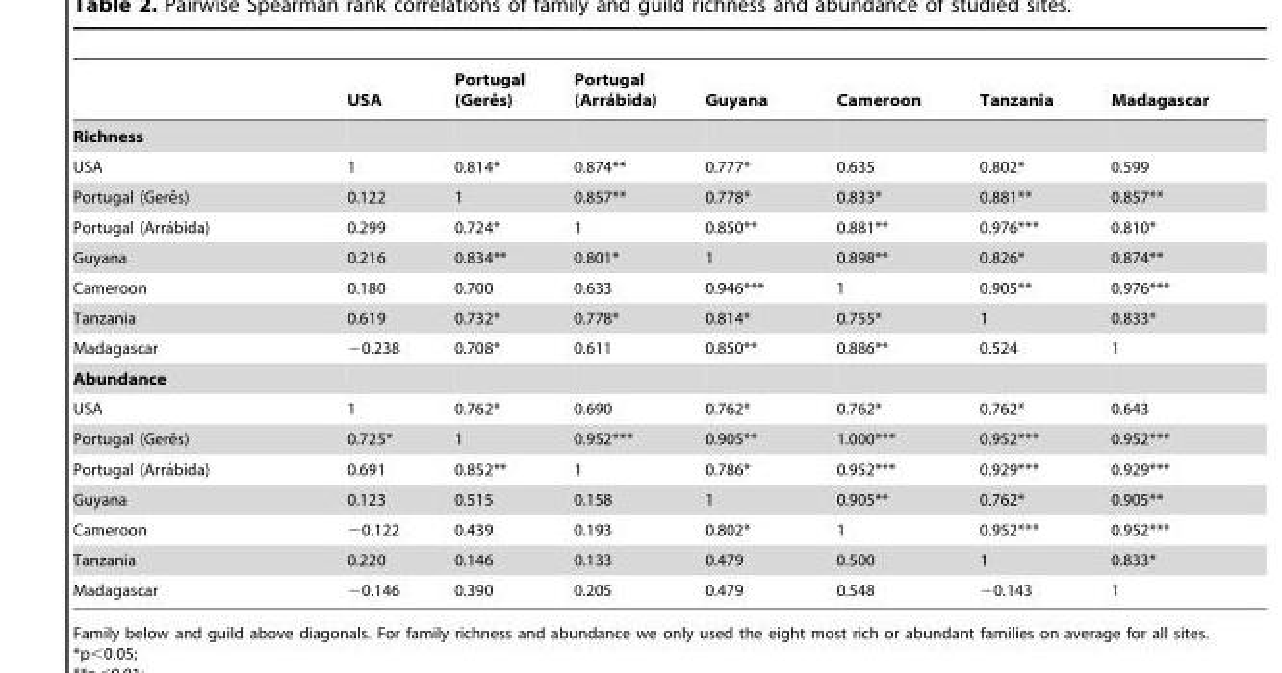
<table><thead><tr><td></td><td>USA</td><td>Portugal (Gereˆs)</td><td>Portugal (Arra´bida)</td><td>Guyana</td><td>Cameroon</td><td>Tanzania</td><td>Madagascar</td></tr></thead><tbody><tr><td colspan="8">Richness</td></tr><tr><td>USA</td><td>1</td><td>0.814*</td><td>0.874**</td><td>0.777*</td><td>0.635</td><td>0.802*</td><td>0.599</td></tr><tr><td>Portugal (Gereˆs)</td><td>0.122</td><td>1</td><td>0.857**</td><td>0.778*</td><td>0.833*</td><td>0.881**</td><td>0.857**</td></tr><tr><td>Portugal (Arra´bida)</td><td>0.299</td><td>0.724*</td><td>1</td><td>0.850**</td><td>0.881**</td><td>0.976***</td><td>0.810*</td></tr><tr><td>Guyana</td><td>0.216</td><td>0.834**</td><td>0.801*</td><td>1</td><td>0.898**</td><td>0.826*</td><td>0.874**</td></tr><tr><td>Cameroon</td><td>0.180</td><td>0.700</td><td>0.633</td><td>0.946***</td><td>1</td><td>0.905**</td><td>0.976***</td></tr><tr><td>Tanzania</td><td>0.619</td><td>0.732*</td><td>0.778*</td><td>0.814*</td><td>0.755*</td><td>1</td><td>0.833*</td></tr><tr><td>Madagascar</td><td>−0.238</td><td>0.708*</td><td>0.611</td><td>0.850**</td><td>0.886**</td><td>0.524</td><td>1</td></tr><tr><td colspan="8">Abundance</td></tr><tr><td>USA</td><td>1</td><td>0.762*</td><td>0.690</td><td>0.762*</td><td>0.762*</td><td>0.762*</td><td>0.643</td></tr><tr><td>Portugal (Gereˆs)</td><td>0.725*</td><td>1</td><td>0.952***</td><td>0.905**</td><td>1.000***</td><td>0.952***</td><td>0.952***</td></tr><tr><td>Portugal (Arra´bida)</td><td>0.691</td><td>0.852**</td><td>1</td><td>0.786*</td><td>0.952***</td><td>0.929***</td><td>0.929***</td></tr><tr><td>Guyana</td><td>0.123</td><td>0.515</td><td>0.158</td><td>1</td><td>0.905**</td><td>0.762*</td><td>0.905**</td></tr><tr><td>Cameroon</td><td>−0.122</td><td>0.439</td><td>0.193</td><td>0.802*</td><td>1</td><td>0.952***</td><td>0.952***</td></tr><tr><td>Tanzania</td><td>0.220</td><td>0.146</td><td>0.133</td><td>0.479</td><td>0.500</td><td>1</td><td>0.833*</td></tr><tr><td>Madagascar</td><td>−0.146</td><td>0.390</td><td>0.205</td><td>0.479</td><td>0.548</td><td>−0.143</td><td>1</td></tr></tbody></table>